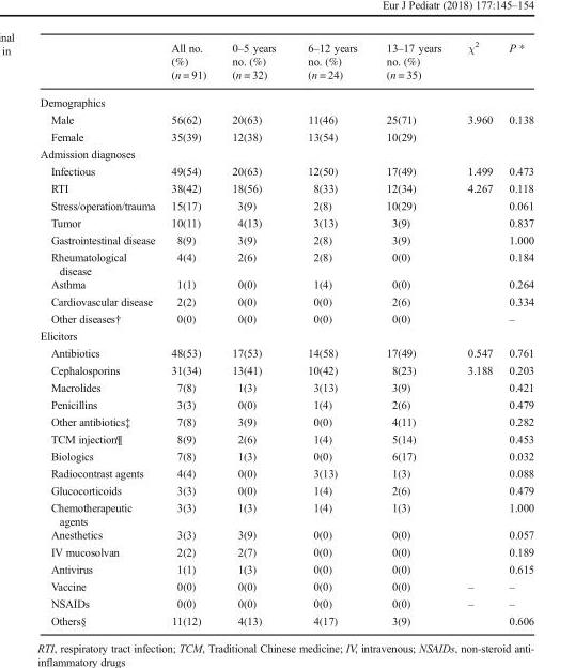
<table><thead><tr><td></td><td>All no. (%) (n = 91)</td><td>0–5 years no. (%) (n = 32)</td><td>6–12 years no. (%) (n = 24)</td><td>13–17 years no. (%) (n = 35)</td><td>χ<sup>2</sup></td><td>P *</td></tr></thead><tbody><tr><td colspan="7">Demographics</td></tr><tr><td>Male</td><td>56(62)</td><td>20(63)</td><td>11(46)</td><td>25(71)</td><td>3.960</td><td>0.138</td></tr><tr><td>Female</td><td>35(39)</td><td>12(38)</td><td>13(54)</td><td>10(29)</td><td></td><td></td></tr><tr><td colspan="7">Admission diagnoses</td></tr><tr><td>Infectious</td><td>49(54)</td><td>20(63)</td><td>12(50)</td><td>17(49)</td><td>1.499</td><td>0.473</td></tr><tr><td>RTI</td><td>38(42)</td><td>18(56)</td><td>8(33)</td><td>12(34)</td><td>4.267</td><td>0.118</td></tr><tr><td>Stress/operation/trauma</td><td>15(17)</td><td>3(9)</td><td>2(8)</td><td>10(29)</td><td></td><td>0.061</td></tr><tr><td>Tumor</td><td>10(11)</td><td>4(13)</td><td>3(13)</td><td>3(9)</td><td></td><td>0.837</td></tr><tr><td>Gastrointestinal disease</td><td>8(9)</td><td>3(9)</td><td>2(8)</td><td>3(9)</td><td></td><td>1.000</td></tr><tr><td>Rheumatological disease</td><td>4(4)</td><td>2(6)</td><td>2(8)</td><td>0(0)</td><td></td><td>0.184</td></tr><tr><td>Asthma</td><td>1(1)</td><td>0(0)</td><td>1(4)</td><td>0(0)</td><td></td><td>0.264</td></tr><tr><td>Cardiovascular disease</td><td>2(2)</td><td>0(0)</td><td>0(0)</td><td>2(6)</td><td></td><td>0.334</td></tr><tr><td>Other diseases†</td><td>0(0)</td><td>0(0)</td><td>0(0)</td><td>0(0)</td><td></td><td>–</td></tr><tr><td colspan="7">Elicitors</td></tr><tr><td>Antibiotics</td><td>48(53)</td><td>17(53)</td><td>14(58)</td><td>17(49)</td><td>0.547</td><td>0.761</td></tr><tr><td>Cephalosporins</td><td>31(34)</td><td>13(41)</td><td>10(42)</td><td>8(23)</td><td>3.188</td><td>0.203</td></tr><tr><td>Macrolides</td><td>7(8)</td><td>1(3)</td><td>3(13)</td><td>3(9)</td><td></td><td>0.421</td></tr><tr><td>Penicillins</td><td>3(3)</td><td>0(0)</td><td>1(4)</td><td>2(6)</td><td></td><td>0.479</td></tr><tr><td>Other antibiotics‡</td><td>7(8)</td><td>3(9)</td><td>0(0)</td><td>4(11)</td><td></td><td>0.282</td></tr><tr><td>TCM injection¶</td><td>8(9)</td><td>2(6)</td><td>1(4)</td><td>5(14)</td><td></td><td>0.453</td></tr><tr><td>Biologics</td><td>7(8)</td><td>1(3)</td><td>0(0)</td><td>6(17)</td><td></td><td>0.032</td></tr><tr><td>Radiocontrast agents</td><td>4(4)</td><td>0(0)</td><td>3(13)</td><td>1(3)</td><td></td><td>0.088</td></tr><tr><td>Glucocorticoids</td><td>3(3)</td><td>0(0)</td><td>1(4)</td><td>2(6)</td><td></td><td>0.479</td></tr><tr><td>Chemotherapeutic agents</td><td>3(3)</td><td>1(3)</td><td>1(4)</td><td>1(3)</td><td></td><td>1.000</td></tr><tr><td>Anesthetics</td><td>3(3)</td><td>3(9)</td><td>0(0)</td><td>0(0)</td><td></td><td>0.057</td></tr><tr><td>IV mucosolvan</td><td>2(2)</td><td>2(7)</td><td>0(0)</td><td>0(0)</td><td></td><td>0.189</td></tr><tr><td>Antivirus</td><td>1(1)</td><td>1(3)</td><td>0(0)</td><td>0(0)</td><td></td><td>0.615</td></tr><tr><td>Vaccine</td><td>0(0)</td><td>0(0)</td><td>0(0)</td><td>0(0)</td><td>–</td><td>–</td></tr><tr><td>NSAIDs</td><td>0(0)</td><td>0(0)</td><td>0(0)</td><td>0(0)</td><td>–</td><td>–</td></tr><tr><td>Others§</td><td>11(12)</td><td>4(13)</td><td>4(17)</td><td>3(9)</td><td></td><td>0.606</td></tr></tbody></table>